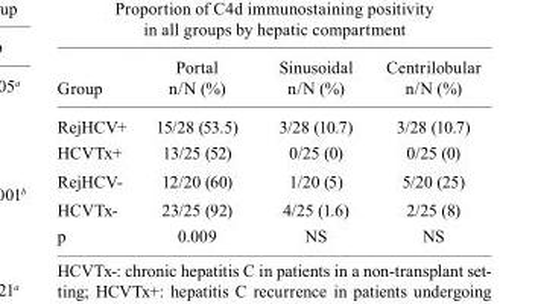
<table><thead><tr><td>Group</td><td>Portal n/N (%)</td><td>Sinusoidal n/N (%)</td><td>Centrilobular n/N (%)</td></tr></thead><tbody><tr><td>RejHCV+</td><td>15/28 (53.5)</td><td>3/28 (10.7)</td><td>3/28 (10.7)</td></tr><tr><td>HCVTx+</td><td>13/25 (52)</td><td>0/25 (0)</td><td>0/25 (0)</td></tr><tr><td>RejHCV-</td><td>12/20 (60)</td><td>1/20 (5)</td><td>5/20 (25)</td></tr><tr><td>HCVTx-</td><td>23/25 (92)</td><td>4/25 (1.6)</td><td>2/25 (8)</td></tr><tr><td>p</td><td>0.009</td><td>NS</td><td>NS</td></tr></tbody></table>